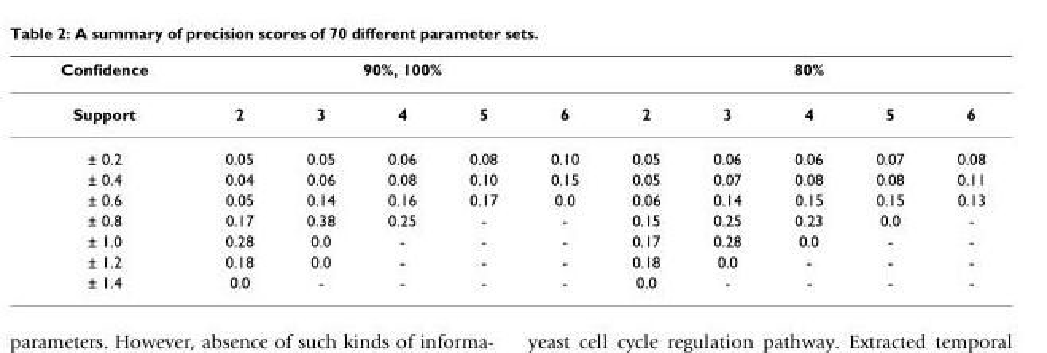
<table><thead><tr><td rowspan="2">Confidence Support</td><td colspan="5">90%, 100%</td><td colspan="5">80%</td></tr><tr><td>2</td><td>3</td><td>4</td><td>5</td><td>6</td><td>2</td><td>3</td><td>4</td><td>5</td><td>6</td></tr></thead><tbody><tr><td>± 0.2</td><td>0.05</td><td>0.05</td><td>0.06</td><td>0.08</td><td>0.10</td><td>0.05</td><td>0.06</td><td>0.06</td><td>0.07</td><td>0.08</td></tr><tr><td>± 0.4</td><td>0.04</td><td>0.06</td><td>0.08</td><td>0.10</td><td>0.15</td><td>0.05</td><td>0.07</td><td>0.08</td><td>0.08</td><td>0.11</td></tr><tr><td>± 0.6</td><td>0.05</td><td>0.14</td><td>0.16</td><td>0.17</td><td>0.0</td><td>0.06</td><td>0.14</td><td>0.15</td><td>0.15</td><td>0.13</td></tr><tr><td>± 0.8</td><td>0.17</td><td>0.38</td><td>0.25</td><td>-</td><td>-</td><td>0.15</td><td>0.25</td><td>0.23</td><td>0.0</td><td>-</td></tr><tr><td>± 1.0</td><td>0.28</td><td>0.0</td><td>-</td><td>-</td><td>-</td><td>0.17</td><td>0.28</td><td>0.0</td><td>-</td><td>-</td></tr><tr><td>± 1.2</td><td>0.18</td><td>0.0</td><td>-</td><td>-</td><td>-</td><td>0.18</td><td>0.0</td><td>-</td><td>-</td><td>-</td></tr><tr><td>± 1.4</td><td>0.0</td><td>-</td><td>-</td><td>-</td><td>-</td><td>0.0</td><td>-</td><td>-</td><td>-</td><td>-</td></tr></tbody></table>